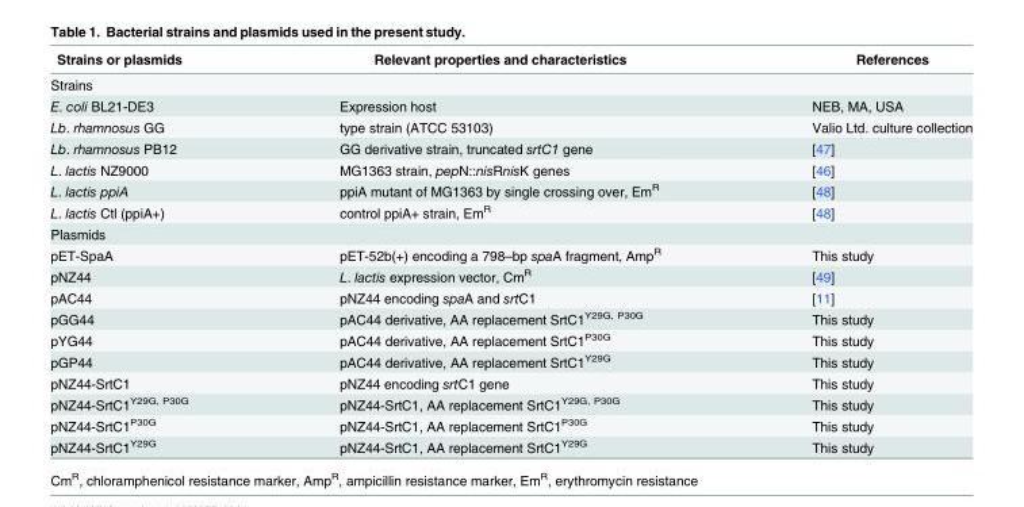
<table><thead><tr><td>Strains or plasmids</td><td>Relevant properties and characteristics</td><td>References</td></tr></thead><tbody><tr><td colspan="3">Strains</td></tr><tr><td>E. coli BL21-DE3</td><td>Expression host</td><td>NEB, MA, USA</td></tr><tr><td>Lb. rhamnosus GG</td><td>type strain (ATCC 53103)</td><td>Valio Ltd. culture collection</td></tr><tr><td>Lb. rhamnosus PB12</td><td>GG derivative strain, truncated srtC1 gene</td><td>[47]</td></tr><tr><td>L. lactis NZ9000</td><td>MG1363 strain, pepN::nisRnisK genes</td><td>[46]</td></tr><tr><td>L. lactis ppiA</td><td>ppiA mutant of MG1363 by single crossing over, Em<sup>R</sup></td><td>[48]</td></tr><tr><td>L. lactis Ctl (ppiA+)</td><td>control ppiA+ strain, Em<sup>R</sup></td><td>[48]</td></tr><tr><td colspan="3">Plasmids</td></tr><tr><td>pET-SpaA</td><td>pET-52b(+) encoding a 798–bp spaA fragment, Amp<sup>R</sup></td><td>This study</td></tr><tr><td>pNZ44</td><td>L. lactis expression vector, Cm<sup>R</sup></td><td>[49]</td></tr><tr><td>pAC44</td><td>pNZ44 encoding spaA and srtC1</td><td>[11]</td></tr><tr><td>pGG44</td><td>pAC44 derivative, AA replacement SrtC1<sup>Y29G, P30G</sup></td><td>This study</td></tr><tr><td>pYG44</td><td>pAC44 derivative, AA replacement SrtC1<sup>P30G</sup></td><td>This study</td></tr><tr><td>pGP44</td><td>pAC44 derivative, AA replacement SrtC1<sup>Y29G</sup></td><td>This study</td></tr><tr><td>pNZ44-SrtC1</td><td>pNZ44 encoding srtC1 gene</td><td>This study</td></tr><tr><td>pNZ44-SrtC1<sup>Y29G, P30G</sup></td><td>pNZ44-SrtC1, AA replacement SrtC1<sup>Y29G, P30G</sup></td><td>This study</td></tr><tr><td>pNZ44-SrtC1<sup>P30G</sup></td><td>pNZ44-SrtC1, AA replacement SrtC1<sup>P30G</sup></td><td>This study</td></tr><tr><td>pNZ44-SrtC1<sup>Y29G</sup></td><td>pNZ44-SrtC1, AA replacement SrtC1<sup>Y29G</sup></td><td>This study</td></tr></tbody></table>